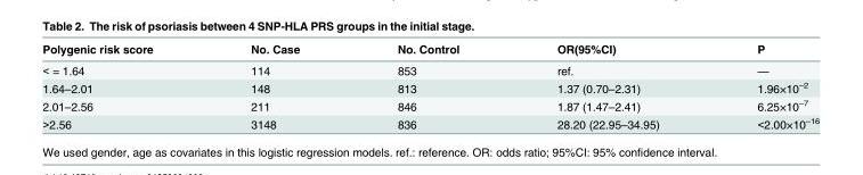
<table><thead><tr><td>Polygenic risk score</td><td>No. Case</td><td>No. Control</td><td>OR(95%CI)</td><td>P</td></tr></thead><tbody><tr><td>&lt; = 1.64</td><td>114</td><td>853</td><td>ref.</td><td>—</td></tr><tr><td>1.64–2.01</td><td>148</td><td>813</td><td>1.37 (0.70–2.31)</td><td>1.96×10<sup>–2</sup></td></tr><tr><td>2.01–2.56</td><td>211</td><td>846</td><td>1.87 (1.47–2.41)</td><td>6.25×10<sup>–7</sup></td></tr><tr><td>&gt;2.56</td><td>3148</td><td>836</td><td>28.20 (22.95–34.95)</td><td>&lt;2.00×10<sup>–16</sup></td></tr></tbody></table>